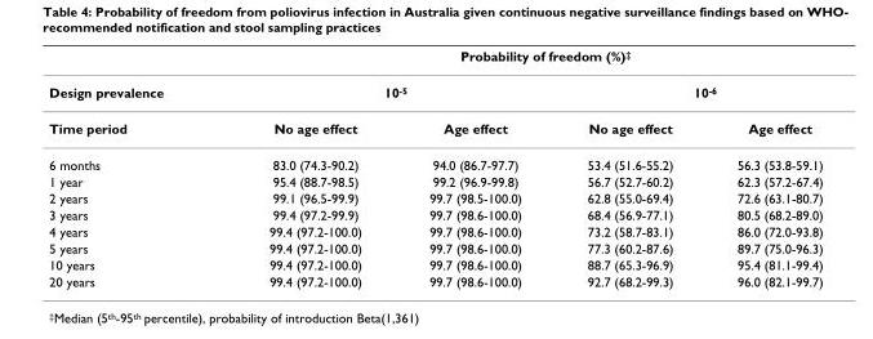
<table><thead><tr><td rowspan="3">Design prevalence Time period</td><td colspan="4">Probability of freedom (%)‡</td></tr><tr><td colspan="2">10-5</td><td colspan="2">10-6</td></tr><tr><td>No age effect</td><td>Age effect</td><td>No age effect</td><td>Age effect</td></tr></thead><tbody><tr><td>6 months</td><td>83.0 (74.3-90.2)</td><td>94.0 (86.7-97.7)</td><td>53.4 (51.6-55.2)</td><td>56.3 (53.8-59.1)</td></tr><tr><td>1 year</td><td>95.4 (88.7-98.5)</td><td>99.2 (96.9-99.8)</td><td>56.7 (52.7-60.2)</td><td>62.3 (57.2-67.4)</td></tr><tr><td>2 years</td><td>99.1 (96.5-99.9)</td><td>99.7 (98.5-100.0)</td><td>62.8 (55.0-69.4)</td><td>72.6 (63.1-80.7)</td></tr><tr><td>3 years</td><td>99.4 (97.2-99.9)</td><td>99.7 (98.6-100.0)</td><td>68.4 (56.9-77.1)</td><td>80.5 (68.2-89.0)</td></tr><tr><td>4 years</td><td>99.4 (97.2-100.0)</td><td>99.7 (98.6-100.0)</td><td>73.2 (58.7-83.1)</td><td>86.0 (72.0-93.8)</td></tr><tr><td>5 years</td><td>99.4 (97.2-100.0)</td><td>99.7 (98.6-100.0)</td><td>77.3 (60.2-87.6)</td><td>89.7 (75.0-96.3)</td></tr><tr><td>10 years</td><td>99.4 (97.2-100.0)</td><td>99.7 (98.6-100.0)</td><td>88.7 (65.3-96.9)</td><td>95.4 (81.1-99.4)</td></tr><tr><td>20 years</td><td>99.4 (97.2-100.0)</td><td>99.7 (98.6-100.0)</td><td>92.7 (68.2-99.3)</td><td>96.0 (82.1-99.7)</td></tr></tbody></table>